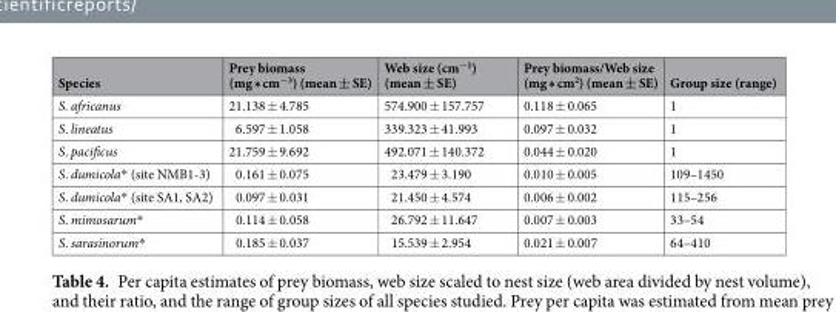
<table><thead><tr><td>Species</td><td>Prey biomass (mg ∗ cm<sup>−3</sup>) (mean ± SE)</td><td>Web size (cm<sup>−1</sup>) (mean ± SE)</td><td>Prey biomass/Web size (mg ∗ cm<sup>2</sup>) (mean ± SE)</td><td>Group size (range)</td></tr></thead><tbody><tr><td>S. africanus</td><td>21.138 ± 4.785</td><td>574.900 ± 157.757</td><td>0.118 ± 0.065</td><td>1</td></tr><tr><td>S. lineatus</td><td>6.597 ± 1.058</td><td>339.323 ± 41.993</td><td>0.097 ± 0.032</td><td>1</td></tr><tr><td>S. pacificus</td><td>21.759 ± 9.692</td><td>492.071 ± 140.372</td><td>0.044 ± 0.020</td><td>1</td></tr><tr><td>S. dumicola* (site NMB1-3)</td><td>0.161 ± 0.075</td><td>23.479 ± 3.190</td><td>0.010 ± 0.005</td><td>109–1450</td></tr><tr><td>S. dumicola* (site SA1, SA2)</td><td>0.097 ± 0.031</td><td>21.450 ± 4.574</td><td>0.006 ± 0.002</td><td>115–256</td></tr><tr><td>S. mimosarum*</td><td>0.114 ± 0.058</td><td>26.792 ± 11.647</td><td>0.007 ± 0.003</td><td>33–54</td></tr><tr><td>S. sarasinorum*</td><td>0.185 ± 0.037</td><td>15.539 ± 2.954</td><td>0.021 ± 0.007</td><td>64–410</td></tr></tbody></table>